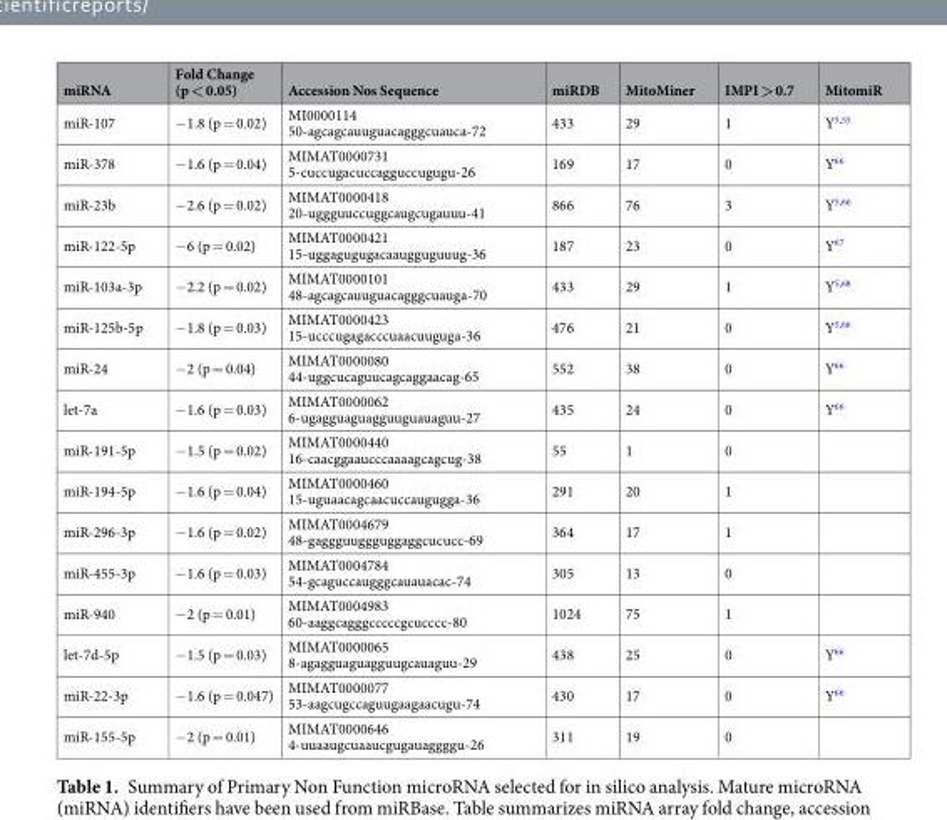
<table><thead><tr><td>miRNA</td><td>Fold Change (p &lt; 0.05)</td><td>Accession Nos Sequence</td><td>miRDB</td><td>MitoMiner</td><td>IMPI &gt; 0.7</td><td>MitomiR</td></tr></thead><tbody><tr><td>miR-107</td><td>−1.8 (p = 0.02)</td><td>MI0000114 50-agcagcauuguacagggcuauca-72</td><td>433</td><td>29</td><td>1</td><td>Y<sup>5,55</sup></td></tr><tr><td>miR-378</td><td>−1.6 (p = 0.04)</td><td>MIMAT0000731 5-cuccugacuccagguccugugu-26</td><td>169</td><td>17</td><td>0</td><td>Y<sup>66</sup></td></tr><tr><td>miR-23b</td><td>−2.6 (p = 0.02)</td><td>MIMAT0000418 20-uggguuccuggcaugcugauuu-41</td><td>866</td><td>76</td><td>3</td><td>Y<sup>5,66</sup></td></tr><tr><td>miR-122-5p</td><td>−6 (p = 0.02)</td><td>MIMAT0000421 15-uggagugugacaaugguguuug-36</td><td>187</td><td>23</td><td>0</td><td>Y<sup>67</sup></td></tr><tr><td>miR-103a-3p</td><td>−2.2 (p = 0.02)</td><td>MIMAT0000101 48-agcagcauuguacagggcuauga-70</td><td>433</td><td>29</td><td>1</td><td>Y<sup>5,68</sup></td></tr><tr><td>miR-125b-5p</td><td>−1.8 (p = 0.03)</td><td>MIMAT0000423 15-ucccugagacccuaacuuguga-36</td><td>476</td><td>21</td><td>0</td><td>Y<sup>5,66</sup></td></tr><tr><td>miR-24</td><td>−2 (p = 0.04)</td><td>MIMAT0000080 44-uggcucaguucagcaggaacag-65</td><td>552</td><td>38</td><td>0</td><td>Y<sup>66</sup></td></tr><tr><td>let-7a</td><td>−1.6 (p = 0.03)</td><td>MIMAT0000062 6-ugagguaguagguuguauaguu-27</td><td>435</td><td>24</td><td>0</td><td>Y<sup>66</sup></td></tr><tr><td>miR-191-5p</td><td>−1.5 (p = 0.02)</td><td>MIMAT0000440 16-caacggaaucccaaaagcagcug-38</td><td>55</td><td>1</td><td>0</td><td></td></tr><tr><td>miR-194-5p</td><td>−1.6 (p = 0.04)</td><td>MIMAT0000460 15-uguaacagcaacuccaugugga-36</td><td>291</td><td>20</td><td>1</td><td></td></tr><tr><td>miR-296-3p</td><td>−1.6 (p = 0.02)</td><td>MIMAT0004679 48-gaggguuggguggaggcucucc-69</td><td>364</td><td>17</td><td>1</td><td></td></tr><tr><td>miR-455-3p</td><td>−1.6 (p = 0.03)</td><td>MIMAT0004784 54-gcaguccaugggcauauacac-74</td><td>305</td><td>13</td><td>0</td><td></td></tr><tr><td>miR-940</td><td>−2 (p = 0.01)</td><td>MIMAT0004983 60-aaggcagggcccccgcucccc-80</td><td>1024</td><td>75</td><td>1</td><td></td></tr><tr><td>let-7d-5p</td><td>−1.5 (p = 0.03)</td><td>MIMAT0000065 8-agagguaguagguugcauaguu-29</td><td>438</td><td>25</td><td>0</td><td>Y<sup>66</sup></td></tr><tr><td>miR-22-3p</td><td>−1.6 (p = 0.047)</td><td>MIMAT0000077 53-aagcugccaguugaagaacugu-74</td><td>430</td><td>17</td><td>0</td><td>Y<sup>66</sup></td></tr><tr><td>miR-155-5p</td><td>−2 (p = 0.01)</td><td>MIMAT0000646 4-uuaaugcuaaucgugauaggggu-26</td><td>311</td><td>19</td><td>0</td><td></td></tr></tbody></table>